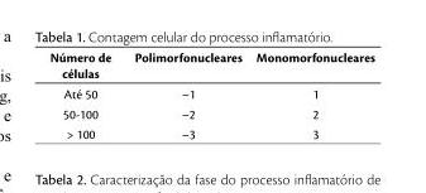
<table><thead><tr><td>Número de células</td><td>Polimorfonucleares</td><td>Monomorfonucleares</td></tr></thead><tbody><tr><td>Até 50</td><td>–1</td><td>1</td></tr><tr><td>50-100</td><td>–2</td><td>2</td></tr><tr><td>&gt; 100</td><td>–3</td><td>3</td></tr></tbody></table>